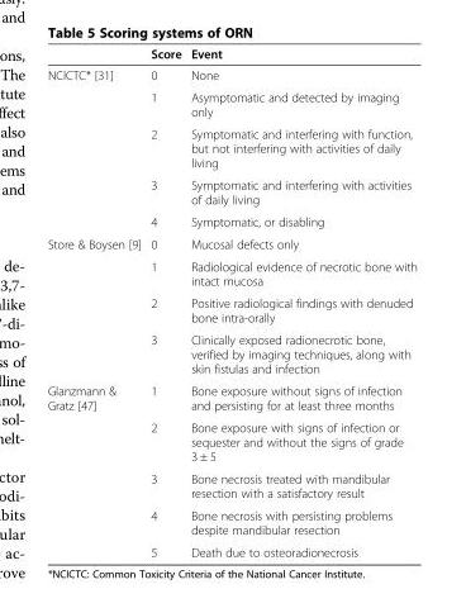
<table><thead><tr><td></td><td>Score</td><td>Event</td></tr></thead><tbody><tr><td rowspan="5">NCICTC* [31]</td><td>0</td><td>None</td></tr><tr><td>1</td><td>Asymptomatic and detected by imaging only</td></tr><tr><td>2</td><td>Symptomatic and interfering with function, but not interfering with activities of daily living</td></tr><tr><td>3</td><td>Symptomatic and interfering with activities of daily living</td></tr><tr><td>4</td><td>Symptomatic, or disabling</td></tr><tr><td rowspan="4">Store &amp; Boysen [9]</td><td>0</td><td>Mucosal defects only</td></tr><tr><td>1</td><td>Radiological evidence of necrotic bone with intact mucosa</td></tr><tr><td>2</td><td>Positive radiological findings with denuded bone intra-orally</td></tr><tr><td>3</td><td>Clinically exposed radionecrotic bone, verified by imaging techniques, along with skin fistulas and infection</td></tr><tr><td rowspan="5">Glanzmann &amp; Gratz [47]</td><td>1</td><td>Bone exposure without signs of infection and persisting for at least three months</td></tr><tr><td>2</td><td>Bone exposure with signs of infection or sequester and without the signs of grade 3 ± 5</td></tr><tr><td>3</td><td>Bone necrosis treated with mandibular resection with a satisfactory result</td></tr><tr><td>4</td><td>Bone necrosis with persisting problems despite mandibular resection</td></tr><tr><td>5</td><td>Death due to osteoradionecrosis</td></tr></tbody></table>